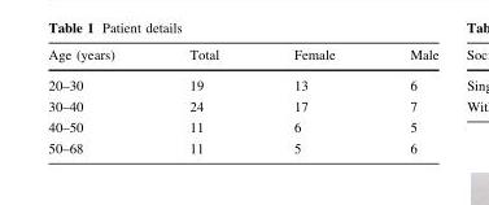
<table><thead><tr><td>Age (years)</td><td>Total</td><td>Female</td><td>Male</td></tr></thead><tbody><tr><td>20–30</td><td>19</td><td>13</td><td>6</td></tr><tr><td>30–40</td><td>24</td><td>17</td><td>7</td></tr><tr><td>40–50</td><td>11</td><td>6</td><td>5</td></tr><tr><td>50–68</td><td>11</td><td>5</td><td>6</td></tr></tbody></table>